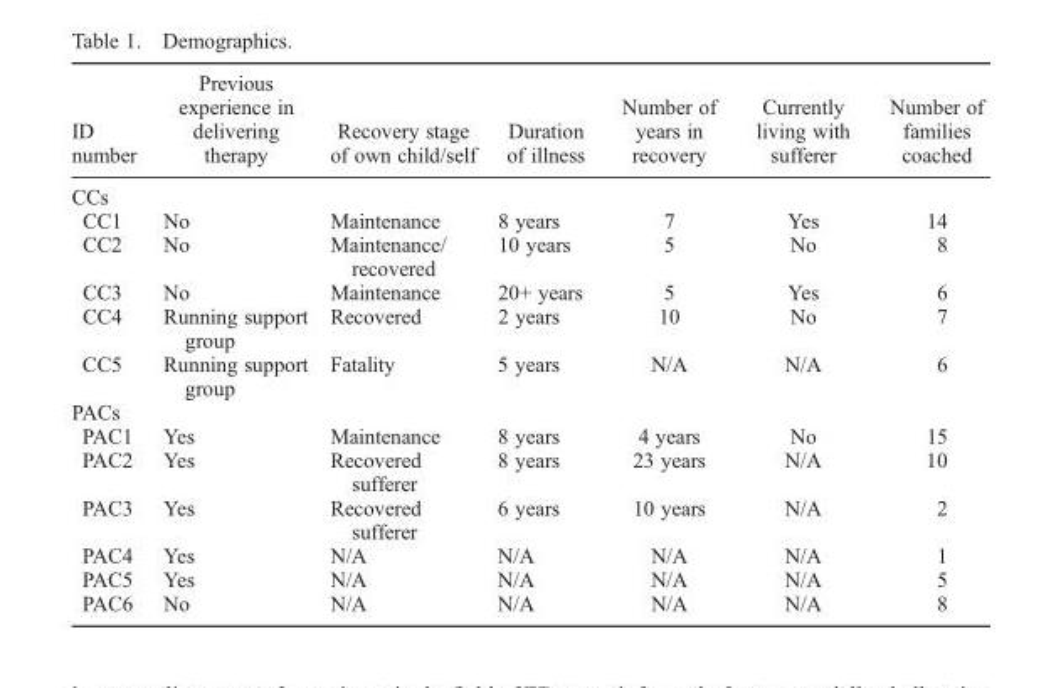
<table><thead><tr><td>ID number</td><td>Previous experience in delivering therapy</td><td>Recovery stage of own child/self</td><td>Duration of illness</td><td>Number of years in recovery</td><td>Currently living with sufferer</td><td>Number of families coached</td></tr></thead><tbody><tr><td colspan="7">CCs</td></tr><tr><td>CC1</td><td>No</td><td>Maintenance</td><td>8 years</td><td>7</td><td>Yes</td><td>14</td></tr><tr><td>CC2</td><td>No</td><td>Maintenance/ recovered</td><td>10 years</td><td>5</td><td>No</td><td>8</td></tr><tr><td>CC3</td><td>No</td><td>Maintenance</td><td>20+ years</td><td>5</td><td>Yes</td><td>6</td></tr><tr><td>CC4</td><td>Running support group</td><td>Recovered</td><td>2 years</td><td>10</td><td>No</td><td>7</td></tr><tr><td>CC5</td><td>Running support group</td><td>Fatality</td><td>5 years</td><td>N/A</td><td>N/A</td><td>6</td></tr><tr><td colspan="7">PACs</td></tr><tr><td>PAC1</td><td>Yes</td><td>Maintenance</td><td>8 years</td><td>4 years</td><td>No</td><td>15</td></tr><tr><td>PAC2</td><td>Yes</td><td>Recovered sufferer</td><td>8 years</td><td>23 years</td><td>N/A</td><td>10</td></tr><tr><td>PAC3</td><td>Yes</td><td>Recovered sufferer</td><td>6 years</td><td>10 years</td><td>N/A</td><td>2</td></tr><tr><td>PAC4</td><td>Yes</td><td>N/A</td><td>N/A</td><td>N/A</td><td>N/A</td><td>1</td></tr><tr><td>PAC5</td><td>Yes</td><td>N/A</td><td>N/A</td><td>N/A</td><td>N/A</td><td>5</td></tr><tr><td>PAC6</td><td>No</td><td>N/A</td><td>N/A</td><td>N/A</td><td>N/A</td><td>8</td></tr></tbody></table>